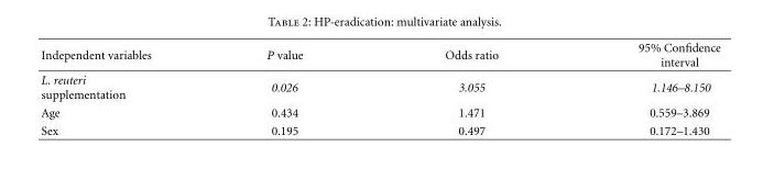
<table><thead><tr><td>Independent variables</td><td>P value</td><td>Odds ratio</td><td>95% Confidence interval</td></tr></thead><tbody><tr><td>L. reuteri supplementation</td><td>0.026</td><td>3.055</td><td>1.146–8.150</td></tr><tr><td>Age</td><td>0.434</td><td>1.471</td><td>0.559–3.869</td></tr><tr><td>Sex</td><td>0.195</td><td>0.497</td><td>0.172–1.430</td></tr></tbody></table>